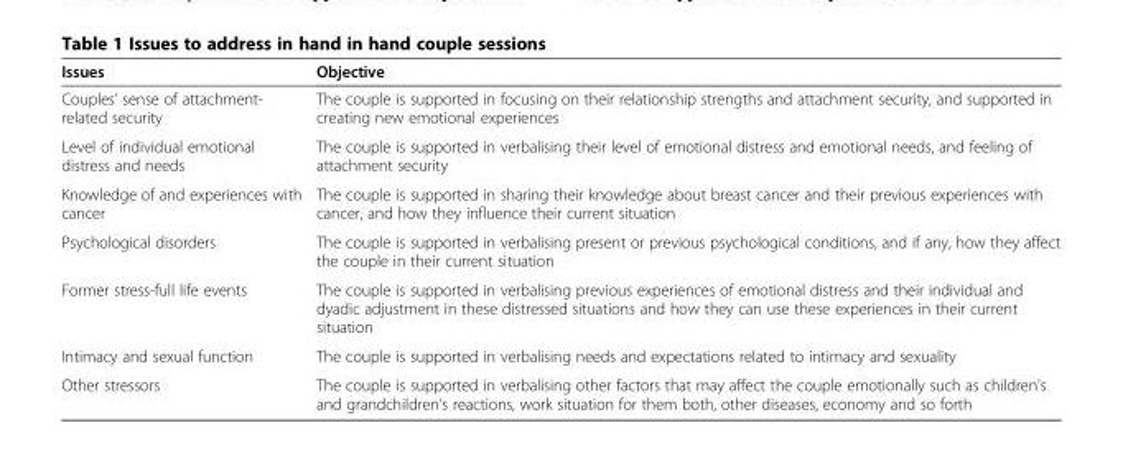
<table><thead><tr><td>Issues</td><td>Objective</td></tr></thead><tbody><tr><td>Couples’ sense of attachment- related security</td><td>The couple is supported in focusing on their relationship strengths and attachment security, and supported in creating new emotional experiences</td></tr><tr><td>Level of individual emotional distress and needs</td><td>The couple is supported in verbalising their level of emotional distress and emotional needs, and feeling of attachment security</td></tr><tr><td>Knowledge of and experiences with cancer</td><td>The couple is supported in sharing their knowledge about breast cancer and their previous experiences with cancer, and how they influence their current situation</td></tr><tr><td>Psychological disorders</td><td>The couple is supported in verbalising present or previous psychological conditions, and if any, how they affect the couple in their current situation</td></tr><tr><td>Former stress-full life events</td><td>The couple is supported in verbalising previous experiences of emotional distress and their individual and dyadic adjustment in these distressed situations and how they can use these experiences in their current situation</td></tr><tr><td>Intimacy and sexual function</td><td>The couple is supported in verbalising needs and expectations related to intimacy and sexuality</td></tr><tr><td>Other stressors</td><td>The couple is supported in verbalising other factors that may affect the couple emotionally such as children’s and grandchildren’s reactions, work situation for them both, other diseases, economy and so forth</td></tr></tbody></table>